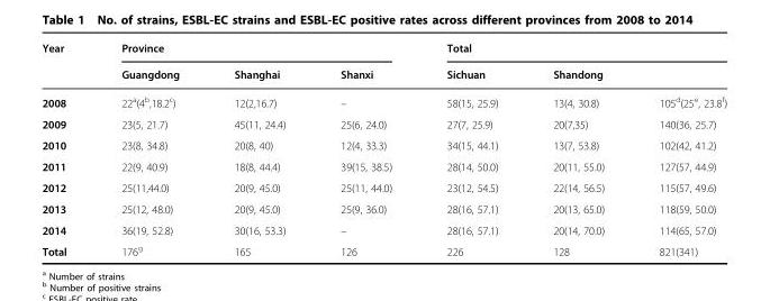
<table><thead><tr><td rowspan="2">Year</td><td colspan="3">Province</td><td colspan="3">Total</td></tr><tr><td>Guangdong</td><td>Shanghai</td><td>Shanxi</td><td>Sichuan</td><td>Shandong</td><td></td></tr></thead><tbody><tr><td>2008</td><td>22<sup>a</sup>(4<sup>b</sup>,18.2<sup>c</sup>)</td><td>12(2,16.7)</td><td>–</td><td>58(15, 25.9)</td><td>13(4, 30.8)</td><td>105<sup>d</sup>(25<sup>e</sup>, 23.8<sup>f</sup>)</td></tr><tr><td>2009</td><td>23(5, 21.7)</td><td>45(11, 24.4)</td><td>25(6, 24.0)</td><td>27(7, 25.9)</td><td>20(7,35)</td><td>140(36, 25.7)</td></tr><tr><td>2010</td><td>23(8, 34.8)</td><td>20(8, 40)</td><td>12(4, 33.3)</td><td>34(15, 44.1)</td><td>13(7, 53.8)</td><td>102(42, 41.2)</td></tr><tr><td>2011</td><td>22(9, 40.9)</td><td>18(8, 44.4)</td><td>39(15, 38.5)</td><td>28(14, 50.0)</td><td>20(11, 55.0)</td><td>127(57, 44.9)</td></tr><tr><td>2012</td><td>25(11,44.0)</td><td>20(9, 45.0)</td><td>25(11, 44.0)</td><td>23(12, 54.5)</td><td>22(14, 56.5)</td><td>115(57, 49.6)</td></tr><tr><td>2013</td><td>25(12, 48.0)</td><td>20(9, 45.0)</td><td>25(9, 36.0)</td><td>28(16, 57.1)</td><td>20(13, 65.0)</td><td>118(59, 50.0)</td></tr><tr><td>2014</td><td>36(19, 52.8)</td><td>30(16, 53.3)</td><td>–</td><td>28(16, 57.1)</td><td>20(14, 70.0)</td><td>114(65, 57.0)</td></tr><tr><td>Total</td><td>176<sup>g</sup></td><td>165</td><td>126</td><td>226</td><td>128</td><td>821(341)</td></tr></tbody></table>